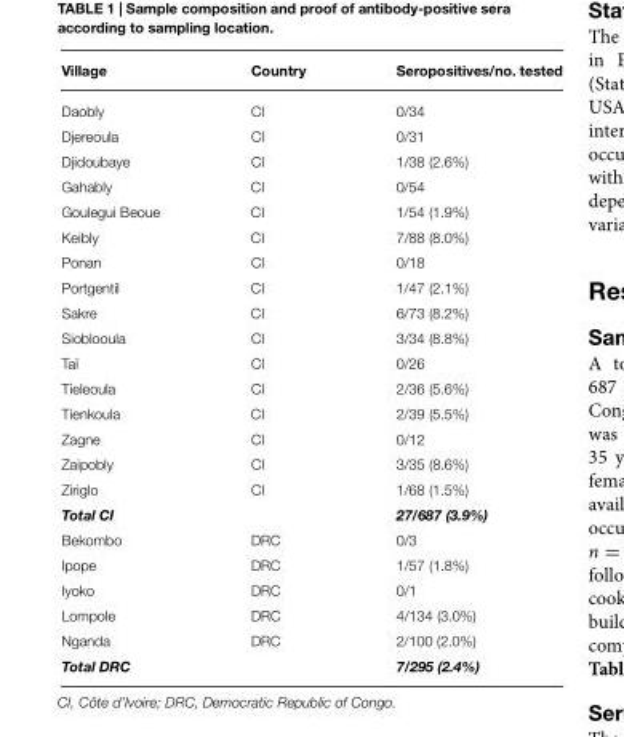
<table><thead><tr><td>Village</td><td>Country</td><td>Seropositives/no. tested</td></tr></thead><tbody><tr><td>Daobly</td><td>CI</td><td>0/34</td></tr><tr><td>Djereoula</td><td>CI</td><td>0/31</td></tr><tr><td>Djidoubaye</td><td>CI</td><td>1/38 (2.6%)</td></tr><tr><td>Gahably</td><td>CI</td><td>0/54</td></tr><tr><td>Goulegui Beoue</td><td>CI</td><td>1/54 (1.9%)</td></tr><tr><td>Keibly</td><td>CI</td><td>7/88 (8.0%)</td></tr><tr><td>Ponan</td><td>CI</td><td>0/18</td></tr><tr><td>Portgentil</td><td>CI</td><td>1/47 (2.1%)</td></tr><tr><td>Sakre</td><td>CI</td><td>6/73 (8.2%)</td></tr><tr><td>Sioblooula</td><td>CI</td><td>3/34 (8.8%)</td></tr><tr><td>Taï</td><td>CI</td><td>0/26</td></tr><tr><td>Tieleoula</td><td>CI</td><td>2/36 (5.6%)</td></tr><tr><td>Tienkoula</td><td>CI</td><td>2/39 (5.5%)</td></tr><tr><td>Zagne</td><td>CI</td><td>0/12</td></tr><tr><td>Zaipobly</td><td>CI</td><td>3/35 (8.6%)</td></tr><tr><td>Ziriglo</td><td>CI</td><td>1/68 (1.5%)</td></tr><tr><td>Total CI</td><td></td><td>27/687 (3.9%)</td></tr><tr><td>Bekombo</td><td>DRC</td><td>0/3</td></tr><tr><td>Ipope</td><td>DRC</td><td>1/57 (1.8%)</td></tr><tr><td>Iyoko</td><td>DRC</td><td>0/1</td></tr><tr><td>Lompole</td><td>DRC</td><td>4/134 (3.0%)</td></tr><tr><td>Nganda</td><td>DRC</td><td>2/100 (2.0%)</td></tr><tr><td>Total DRC</td><td></td><td>7/295 (2.4%)</td></tr></tbody></table>